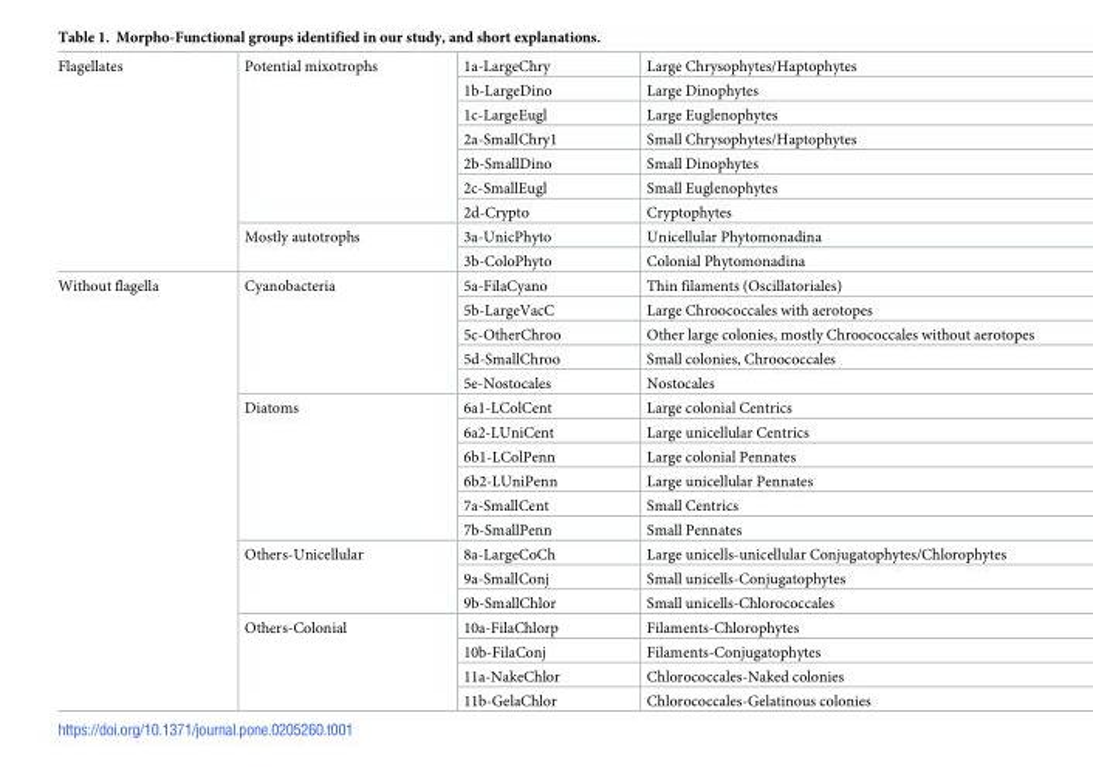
<table><tbody><tr><td rowspan="9">Flagellates</td><td rowspan="7">Potential mixotrophs</td><td>1a-LargeChry</td><td>Large Chrysophytes/Haptophytes</td></tr><tr><td>1b-LargeDino</td><td>Large Dinophytes</td></tr><tr><td>1c-LargeEugl</td><td>Large Euglenophytes</td></tr><tr><td>2a-SmallChry1</td><td>Small Chrysophytes/Haptophytes</td></tr><tr><td>2b-SmallDino</td><td>Small Dinophytes</td></tr><tr><td>2c-SmallEugl</td><td>Small Euglenophytes</td></tr><tr><td>2d-Crypto</td><td>Cryptophytes</td></tr><tr><td rowspan="2">Mostly autotrophs</td><td>3a-UnicPhyto</td><td>Unicellular Phytomonadina</td></tr><tr><td>3b-ColoPhyto</td><td>Colonial Phytomonadina</td></tr><tr><td rowspan="18">Without flagella</td><td rowspan="5">Cyanobacteria</td><td>5a-FilaCyano</td><td>Thin filaments (Oscillatoriales)</td></tr><tr><td>5b-LargeVacC</td><td>Large Chroococcales with aerotopes</td></tr><tr><td>5c-OtherChroo</td><td>Other large colonies, mostly Chroococcales without aerotopes</td></tr><tr><td>5d-SmallChroo</td><td>Small colonies, Chroococcales</td></tr><tr><td>5e-Nostocales</td><td>Nostocales</td></tr><tr><td rowspan="6">Diatoms</td><td>6a1-LColCent</td><td>Large colonial Centrics</td></tr><tr><td>6a2-LUniCent</td><td>Large unicellular Centrics</td></tr><tr><td>6b1-LColPenn</td><td>Large colonial Pennates</td></tr><tr><td>6b2-LUniPenn</td><td>Large unicellular Pennates</td></tr><tr><td>7a-SmallCent</td><td>Small Centrics</td></tr><tr><td>7b-SmallPenn</td><td>Small Pennates</td></tr><tr><td rowspan="3">Others-Unicellular</td><td>8a-LargeCoCh</td><td>Large unicells-unicellular Conjugatophytes/Chlorophytes</td></tr><tr><td>9a-SmallConj</td><td>Small unicells-Conjugatophytes</td></tr><tr><td>9b-SmallChlor</td><td>Small unicells-Chlorococcales</td></tr><tr><td rowspan="4">Others-Colonial</td><td>10a-FilaChlorp</td><td>Filaments-Chlorophytes</td></tr><tr><td>10b-FilaConj</td><td>Filaments-Conjugatophytes</td></tr><tr><td>11a-NakeChlor</td><td>Chlorococcales-Naked colonies</td></tr><tr><td>11b-GelaChlor</td><td>Chlorococcales-Gelatinous colonies</td></tr></tbody></table>